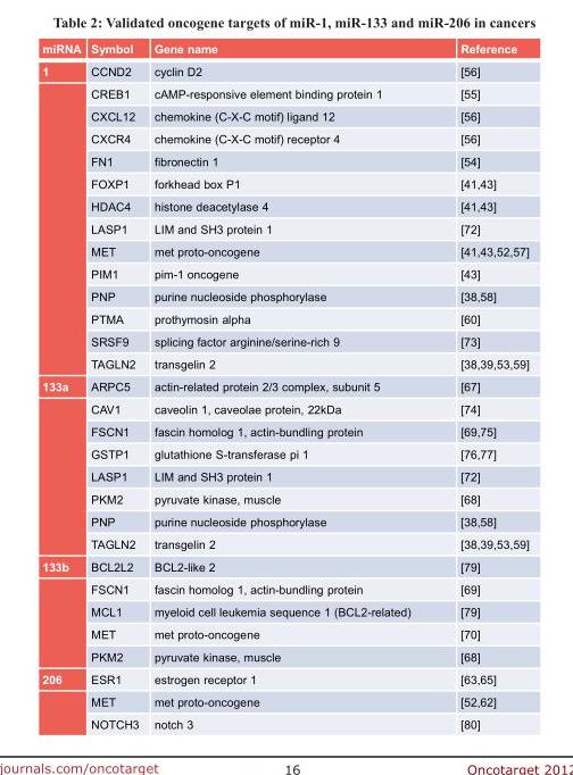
<table><thead><tr><td>miRNA</td><td>Symbol</td><td>Gene name</td><td>Reference</td></tr></thead><tbody><tr><td rowspan="14">1</td><td>CCND2</td><td>cyclin D2</td><td>[56]</td></tr><tr><td>CREB1</td><td>cAMP-responsive element binding protein 1</td><td>[55]</td></tr><tr><td>CXCL12</td><td>chemokine (C-X-C motif) ligand 12</td><td>[56]</td></tr><tr><td>CXCR4</td><td>chemokine (C-X-C motif) receptor 4</td><td>[56]</td></tr><tr><td>FN1</td><td>fibronectin 1</td><td>[54]</td></tr><tr><td>FOXP1</td><td>forkhead box P1</td><td>[41,43]</td></tr><tr><td>HDAC4</td><td>histone deacetylase 4</td><td>[41,43]</td></tr><tr><td>LASP1</td><td>LIM and SH3 protein 1</td><td>[72]</td></tr><tr><td>MET</td><td>met proto-oncogene</td><td>[41,43,52,57]</td></tr><tr><td>PIM1</td><td>pim-1 oncogene</td><td>[43]</td></tr><tr><td>PNP</td><td>purine nucleoside phosphorylase</td><td>[38,58]</td></tr><tr><td>PTMA</td><td>prothymosin alpha</td><td>[60]</td></tr><tr><td>SRSF9</td><td>splicing factor arginine/serine-rich 9</td><td>[73]</td></tr><tr><td>TAGLN2</td><td>transgelin 2</td><td>[38,39,53,59]</td></tr><tr><td rowspan="8">133a</td><td>ARPC5</td><td>actin-related protein 2/3 complex, subunit 5</td><td>[67]</td></tr><tr><td>CAV1</td><td>caveolin 1, caveolae protein, 22kDa</td><td>[74]</td></tr><tr><td>FSCN1</td><td>fascin homolog 1, actin-bundling protein</td><td>[69,75]</td></tr><tr><td>GSTP1</td><td>glutathione S-transferase pi 1</td><td>[76,77]</td></tr><tr><td>LASP1</td><td>LIM and SH3 protein 1</td><td>[72]</td></tr><tr><td>PKM2</td><td>pyruvate kinase, muscle</td><td>[68]</td></tr><tr><td>PNP</td><td>purine nucleoside phosphorylase</td><td>[38,58]</td></tr><tr><td>TAGLN2</td><td>transgelin 2</td><td>[38,39,53,59]</td></tr><tr><td rowspan="5">133b</td><td>BCL2L2</td><td>BCL2-like 2</td><td>[79]</td></tr><tr><td>FSCN1</td><td>fascin homolog 1, actin-bundling protein</td><td>[69]</td></tr><tr><td>MCL1</td><td>myeloid cell leukemia sequence 1 (BCL2-related)</td><td>[79]</td></tr><tr><td>MET</td><td>met proto-oncogene</td><td>[70]</td></tr><tr><td>PKM2</td><td>pyruvate kinase, muscle</td><td>[68]</td></tr><tr><td rowspan="3">206</td><td>ESR1</td><td>estrogen receptor 1</td><td>[63,65]</td></tr><tr><td>MET</td><td>met proto-oncogene</td><td>[52,62]</td></tr><tr><td>NOTCH3</td><td>notch 3</td><td>[80]</td></tr></tbody></table>